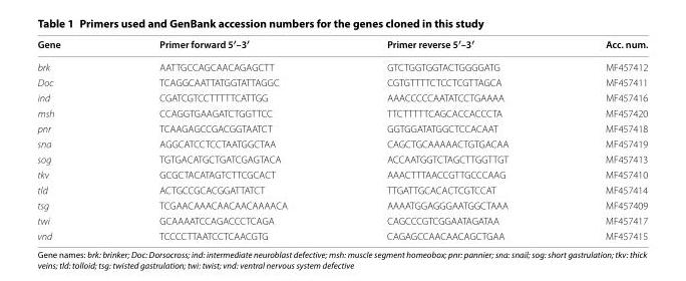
<table><thead><tr><td>Gene</td><td>Primer forward 5′–3′</td><td>Primer reverse 5′–3′</td><td>Acc. num.</td></tr></thead><tbody><tr><td>brk</td><td>AATTGCCAGCAACAGAGCTT</td><td>GTCTGGTGGTACTGGGGATG</td><td>MF457412</td></tr><tr><td>Doc</td><td>TCAGGCAATTATGGTATTAGGC</td><td>CGTGTTTTCTCCTCGTTAGCA</td><td>MF457411</td></tr><tr><td>ind</td><td>CGATCGTCCTTTTTCATTGG</td><td>AAACCCCCAATATCCTGAAAA</td><td>MF457416</td></tr><tr><td>msh</td><td>CCAGGTGAAGATCTGGTTCC</td><td>TTCTTTTTCAGCACCACCCTA</td><td>MF457420</td></tr><tr><td>pnr</td><td>TCAAGAGCCGACGGTAATCT</td><td>GGTGGATATGGCTCCACAAT</td><td>MF457418</td></tr><tr><td>sna</td><td>AGGCATCCTCCTAATGGCTAA</td><td>CAGCTGCAAAAACTGTGACAA</td><td>MF457419</td></tr><tr><td>sog</td><td>TGTGACATGCTGATCGAGTACA</td><td>ACCAATGGTCTAGCTTGGTTGT</td><td>MF457413</td></tr><tr><td>tkv</td><td>GCGCTACATAGTCTTCGCACT</td><td>AAACTTTAACCGTTGCCCAAG</td><td>MF457410</td></tr><tr><td>tld</td><td>ACTGCCGCACGGATTATCT</td><td>TTGATTGCACACTCGTCCAT</td><td>MF457414</td></tr><tr><td>tsg</td><td>TCGAACAAACAACAACAAAACA</td><td>AAAATGGAGGGAATGGCTAAA</td><td>MF457409</td></tr><tr><td>twi</td><td>GCAAAATCCAGACCCTCAGA</td><td>CAGCCCGTCGGAATAGATAA</td><td>MF457417</td></tr><tr><td>vnd</td><td>TCCCCTTAATCCTCAACGTG</td><td>CAGAGCCAACAACAGCTGAA</td><td>MF457415</td></tr></tbody></table>